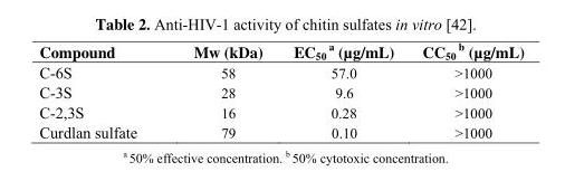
<table><thead><tr><td>Compound</td><td>Mw (kDa)</td><td>EC<sub>50</sub> <sup>a</sup> (µg/mL)</td><td>CC<sub>50</sub> <sup>b</sup> (µg/mL)</td></tr></thead><tbody><tr><td>C-6S</td><td>58</td><td>57.0</td><td>&gt;1000</td></tr><tr><td>C-3S</td><td>28</td><td>9.6</td><td>&gt;1000</td></tr><tr><td>C-2,3S</td><td>16</td><td>0.28</td><td>&gt;1000</td></tr><tr><td>Curdlan sulfate</td><td>79</td><td>0.10</td><td>&gt;1000</td></tr></tbody></table>